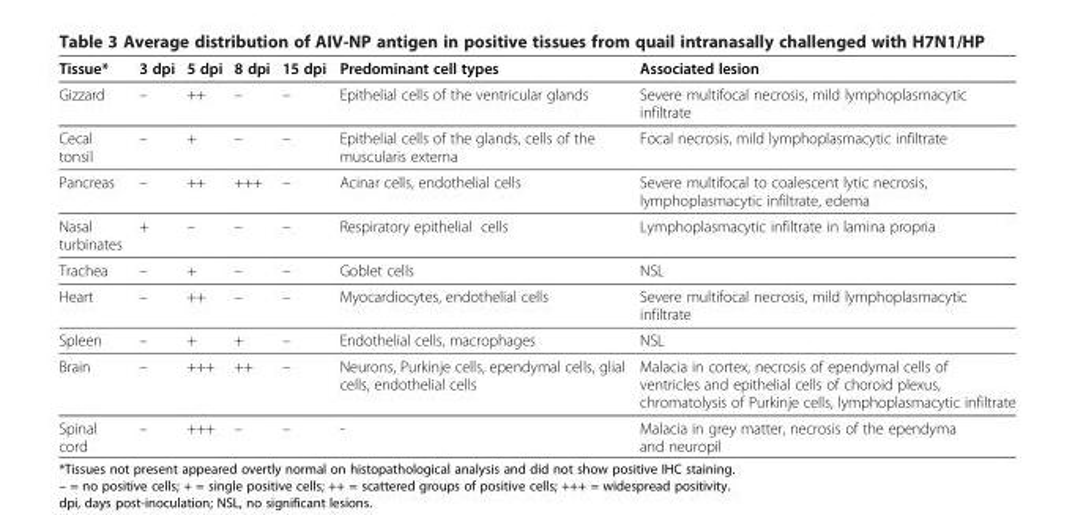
<table><thead><tr><td>Tissue*</td><td>3 dpi</td><td>5 dpi</td><td>8 dpi</td><td>15 dpi</td><td>Predominant cell types</td><td>Associated lesion</td></tr></thead><tbody><tr><td>Gizzard</td><td>–</td><td>++</td><td>–</td><td>–</td><td>Epithelial cells of the ventricular glands</td><td>Severe multifocal necrosis, mild lymphoplasmacytic infiltrate</td></tr><tr><td>Cecal tonsil</td><td>–</td><td>+</td><td>–</td><td>–</td><td>Epithelial cells of the glands, cells of the muscularis externa</td><td>Focal necrosis, mild lymphoplasmacytic infiltrate</td></tr><tr><td>Pancreas</td><td>–</td><td>++</td><td>+++</td><td>–</td><td>Acinar cells, endothelial cells</td><td>Severe multifocal to coalescent lytic necrosis, lymphoplasmacytic infiltrate, edema</td></tr><tr><td>Nasal turbinates</td><td>+</td><td>–</td><td>–</td><td>–</td><td>Respiratory epithelial cells</td><td>Lymphoplasmacytic infiltrate in lamina propria</td></tr><tr><td>Trachea</td><td>–</td><td>+</td><td>–</td><td>–</td><td>Goblet cells</td><td>NSL</td></tr><tr><td>Heart</td><td>–</td><td>++</td><td>–</td><td>–</td><td>Myocardiocytes, endothelial cells</td><td>Severe multifocal necrosis, mild lymphoplasmacytic infiltrate</td></tr><tr><td>Spleen</td><td>–</td><td>+</td><td>+</td><td>–</td><td>Endothelial cells, macrophages</td><td>NSL</td></tr><tr><td>Brain</td><td>–</td><td>+++</td><td>++</td><td>–</td><td>Neurons, Purkinje cells, ependymal cells, glial cells, endothelial cells</td><td>Malacia in cortex, necrosis of ependymal cells of ventricles and epithelial cells of choroid plexus, chromatolysis of Purkinje cells, lymphoplasmacytic infiltrate</td></tr><tr><td>Spinal cord</td><td>–</td><td>+++</td><td>–</td><td>–</td><td>-</td><td>Malacia in grey matter, necrosis of the ependyma and neuropil</td></tr></tbody></table>